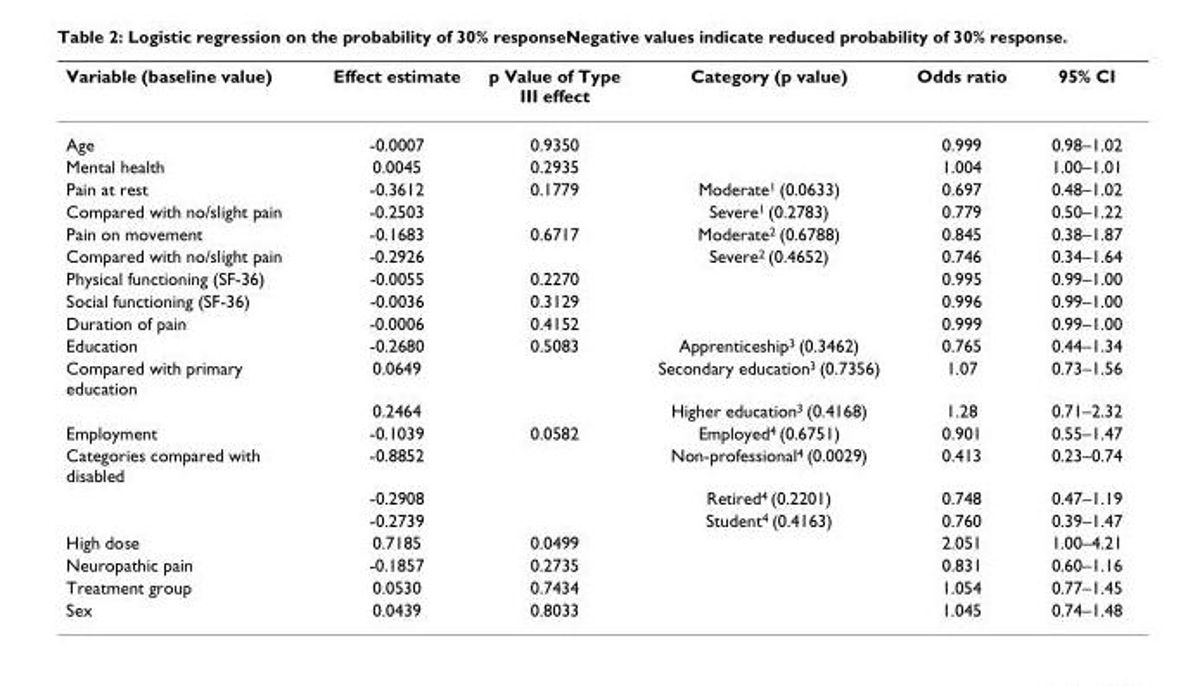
<table><thead><tr><td>Variable (baseline value)</td><td>Effect estimate</td><td>p Value of Type III effect</td><td>Category (p value)</td><td>Odds ratio</td><td>95% CI</td></tr></thead><tbody><tr><td>Age</td><td>-0.0007</td><td>0.9350</td><td></td><td>0.999</td><td>0.98–1.02</td></tr><tr><td>Mental health</td><td>0.0045</td><td>0.2935</td><td></td><td>1.004</td><td>1.00–1.01</td></tr><tr><td>Pain at rest</td><td>-0.3612</td><td>0.1779</td><td>Moderate<sup>1</sup> (0.0633)</td><td>0.697</td><td>0.48–1.02</td></tr><tr><td>Compared with no/slight pain</td><td>-0.2503</td><td></td><td>Severe<sup>1</sup> (0.2783)</td><td>0.779</td><td>0.50–1.22</td></tr><tr><td>Pain on movement</td><td>-0.1683</td><td>0.6717</td><td>Moderate<sup>2</sup> (0.6788)</td><td>0.845</td><td>0.38–1.87</td></tr><tr><td>Compared with no/slight pain</td><td>-0.2926</td><td></td><td>Severe<sup>2</sup> (0.4652)</td><td>0.746</td><td>0.34–1.64</td></tr><tr><td>Physical functioning (SF-36)</td><td>-0.0055</td><td>0.2270</td><td></td><td>0.995</td><td>0.99–1.00</td></tr><tr><td>Social functioning (SF-36)</td><td>-0.0036</td><td>0.3129</td><td></td><td>0.996</td><td>0.99–1.00</td></tr><tr><td>Duration of pain</td><td>-0.0006</td><td>0.4152</td><td></td><td>0.999</td><td>0.99–1.00</td></tr><tr><td>Education</td><td>-0.2680</td><td>0.5083</td><td>Apprenticeship<sup>3</sup> (0.3462)</td><td>0.765</td><td>0.44–1.34</td></tr><tr><td rowspan="2">Compared with primary education</td><td>0.0649</td><td></td><td>Secondary education<sup>3</sup> (0.7356)</td><td>1.07</td><td>0.73–1.56</td></tr><tr><td>0.2464</td><td></td><td>Higher education<sup>3</sup> (0.4168)</td><td>1.28</td><td>0.71–2.32</td></tr><tr><td>Employment</td><td>-0.1039</td><td>0.0582</td><td>Employed<sup>4</sup> (0.6751)</td><td>0.901</td><td>0.55–1.47</td></tr><tr><td rowspan="3">Categories compared with disabled</td><td>-0.8852</td><td></td><td>Non-professional<sup>4</sup> (0.0029)</td><td>0.413</td><td>0.23–0.74</td></tr><tr><td>-0.2908</td><td></td><td>Retired<sup>4</sup> (0.2201)</td><td>0.748</td><td>0.47–1.19</td></tr><tr><td>-0.2739</td><td></td><td>Student<sup>4</sup> (0.4163)</td><td>0.760</td><td>0.39–1.47</td></tr><tr><td>High dose</td><td>0.7185</td><td>0.0499</td><td></td><td>2.051</td><td>1.00–4.21</td></tr><tr><td>Neuropathic pain</td><td>-0.1857</td><td>0.2735</td><td></td><td>0.831</td><td>0.60–1.16</td></tr><tr><td>Treatment group</td><td>0.0530</td><td>0.7434</td><td></td><td>1.054</td><td>0.77–1.45</td></tr><tr><td>Sex</td><td>0.0439</td><td>0.8033</td><td></td><td>1.045</td><td>0.74–1.48</td></tr></tbody></table>